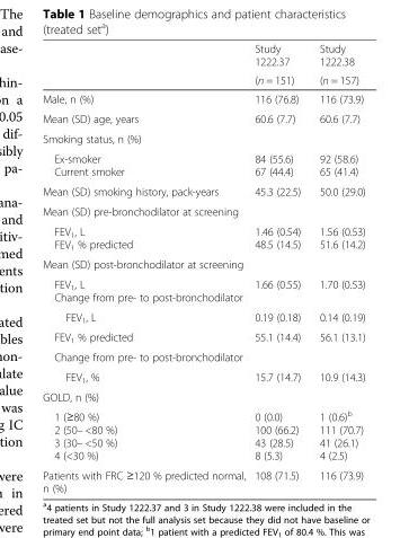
<table><thead><tr><td rowspan="2"></td><td rowspan="2">Study 1222.37 (n = 151)</td><td rowspan="2">Study 1222.38 (n = 157)</td></tr><tr></tr></thead><tbody><tr><td>Male, n (%)</td><td>116 (76.8)</td><td>116 (73.9)</td></tr><tr><td>Mean (SD) age, years</td><td>60.6 (7.7)</td><td>60.6 (7.7)</td></tr><tr><td colspan="3">Smoking status, n (%)</td></tr><tr><td>Ex-smoker Current smoker</td><td>84 (55.6) 67 (44.4)</td><td>92 (58.6) 65 (41.4)</td></tr><tr><td>Mean (SD) smoking history, pack-years</td><td>45.3 (22.5)</td><td>50.0 (29.0)</td></tr><tr><td colspan="3">Mean (SD) pre-bronchodilator at screening</td></tr><tr><td>FEV<sub>1</sub>, L FEV<sub>1</sub> % predicted</td><td>1.46 (0.54) 48.5 (14.5)</td><td>1.56 (0.53) 51.6 (14.2)</td></tr><tr><td colspan="3">Mean (SD) post-bronchodilator at screening</td></tr><tr><td>FEV<sub>1</sub>, L Change from pre- to post-bronchodilator</td><td>1.66 (0.55)</td><td>1.70 (0.53)</td></tr><tr><td>FEV<sub>1</sub>, L</td><td>0.19 (0.18)</td><td>0.14 (0.19)</td></tr><tr><td>FEV<sub>1</sub> % predicted</td><td>55.1 (14.4)</td><td>56.1 (13.1)</td></tr><tr><td colspan="3">Change from pre- to post-bronchodilator</td></tr><tr><td>FEV<sub>1</sub>, %</td><td>15.7 (14.7)</td><td>10.9 (14.3)</td></tr><tr><td colspan="3">GOLD, n (%)</td></tr><tr><td>1 (≥80 %) 2 (50– &lt;80 %) 3 (30– &lt;50 %) 4 (&lt;30 %)</td><td>0 (0.0) 100 (66.2) 43 (28.5) 8 (5.3)</td><td>1 (0.6)<sup>b</sup> 111 (70.7) 41 (26.1) 4 (2.5)</td></tr><tr><td>Patients with FRC ≥120 % predicted normal, n (%)</td><td>108 (71.5)</td><td>116 (73.9)</td></tr></tbody></table>